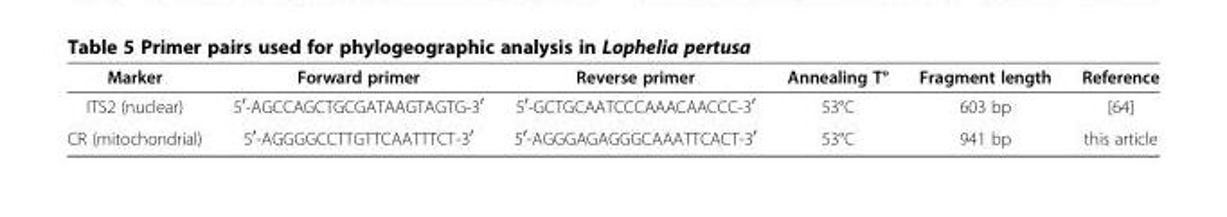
<table><thead><tr><td>Marker</td><td>Forward primer</td><td>Reverse primer</td><td>Annealing T°</td><td>Fragment length</td><td>Reference</td></tr></thead><tbody><tr><td>ITS2 (nuclear)</td><td>5<sup>′</sup>-AGCCAGCTGCGATAAGTAGTG-3<sup>′</sup></td><td>5<sup>′</sup>-GCTGCAATCCCAAACAACCC-3<sup>′</sup></td><td>53°C</td><td>603 bp</td><td>[64]</td></tr><tr><td>CR (mitochondrial)</td><td>5<sup>′</sup>-AGGGGCCTTGTTCAATTTCT-3<sup>′</sup></td><td>5<sup>′</sup>-AGGGAGAGGGCAAATTCACT-3<sup>′</sup></td><td>53°C</td><td>941 bp</td><td>this article</td></tr></tbody></table>